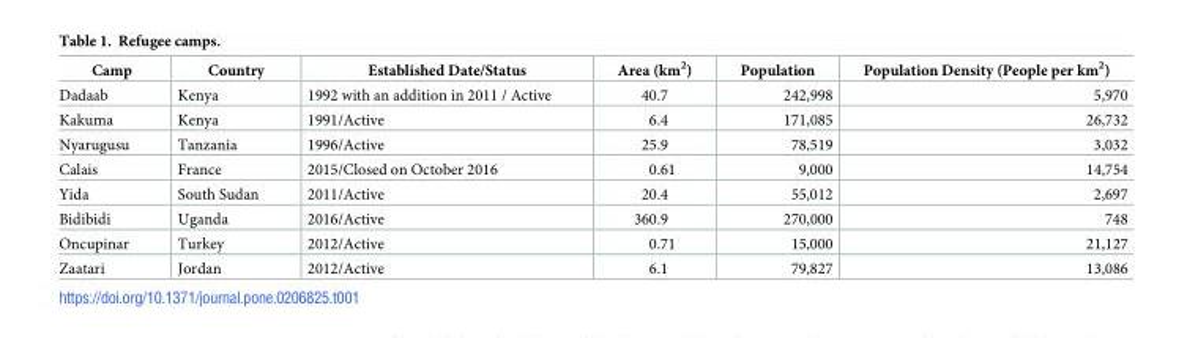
<table><thead><tr><td>Camp</td><td>Country</td><td>Established Date/Status</td><td>Area (km<sup>2</sup>)</td><td>Population</td><td>Population Density (People per km<sup>2</sup>)</td></tr></thead><tbody><tr><td>Dadaab</td><td>Kenya</td><td>1992 with an addition in 2011 / Active</td><td>40.7</td><td>242,998</td><td>5,970</td></tr><tr><td>Kakuma</td><td>Kenya</td><td>1991/Active</td><td>6.4</td><td>171,085</td><td>26,732</td></tr><tr><td>Nyarugusu</td><td>Tanzania</td><td>1996/Active</td><td>25.9</td><td>78,519</td><td>3,032</td></tr><tr><td>Calais</td><td>France</td><td>2015/Closed on October 2016</td><td>0.61</td><td>9,000</td><td>14,754</td></tr><tr><td>Yida</td><td>South Sudan</td><td>2011/Active</td><td>20.4</td><td>55,012</td><td>2,697</td></tr><tr><td>Bidibidi</td><td>Uganda</td><td>2016/Active</td><td>360.9</td><td>270,000</td><td>748</td></tr><tr><td>Oncupinar</td><td>Turkey</td><td>2012/Active</td><td>0.71</td><td>15,000</td><td>21,127</td></tr><tr><td>Zaatari</td><td>Jordan</td><td>2012/Active</td><td>6.1</td><td>79,827</td><td>13,086</td></tr></tbody></table>